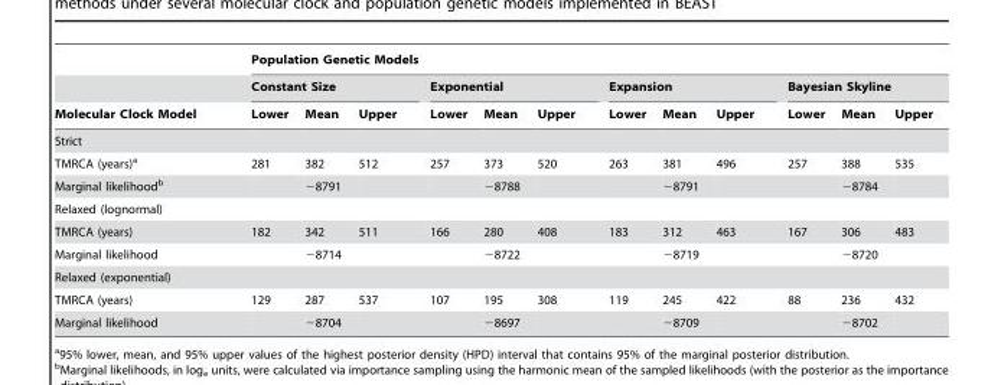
<table><thead><tr><td rowspan="3">Molecular Clock Model</td><td colspan="12">Population Genetic Models</td></tr><tr><td colspan="3">Constant Size</td><td colspan="3">Exponential</td><td colspan="3">Expansion</td><td colspan="3">Bayesian Skyline</td></tr><tr><td>Lower</td><td>Mean</td><td>Upper</td><td>Lower</td><td>Mean</td><td>Upper</td><td>Lower</td><td>Mean</td><td>Upper</td><td>Lower</td><td>Mean</td><td>Upper</td></tr></thead><tbody><tr><td colspan="13">Strict</td></tr><tr><td>TMRCA (years)<sup>a</sup></td><td>281</td><td>382</td><td>512</td><td>257</td><td>373</td><td>520</td><td>263</td><td>381</td><td>496</td><td>257</td><td>388</td><td>535</td></tr><tr><td>Marginal likelihood<sup>b</sup></td><td></td><td>−8791</td><td></td><td></td><td>−8788</td><td></td><td></td><td>−8791</td><td></td><td></td><td>−8784</td><td></td></tr><tr><td colspan="13">Relaxed (lognormal)</td></tr><tr><td>TMRCA (years)</td><td>182</td><td>342</td><td>511</td><td>166</td><td>280</td><td>408</td><td>183</td><td>312</td><td>463</td><td>167</td><td>306</td><td>483</td></tr><tr><td>Marginal likelihood</td><td></td><td>−8714</td><td></td><td></td><td>−8722</td><td></td><td></td><td>−8719</td><td></td><td></td><td>−8720</td><td></td></tr><tr><td colspan="13">Relaxed (exponential)</td></tr><tr><td>TMRCA (years)</td><td>129</td><td>287</td><td>537</td><td>107</td><td>195</td><td>308</td><td>119</td><td>245</td><td>422</td><td>88</td><td>236</td><td>432</td></tr><tr><td>Marginal likelihood</td><td></td><td>−8704</td><td></td><td></td><td>−8697</td><td></td><td></td><td>−8709</td><td></td><td></td><td>−8702</td><td></td></tr></tbody></table>